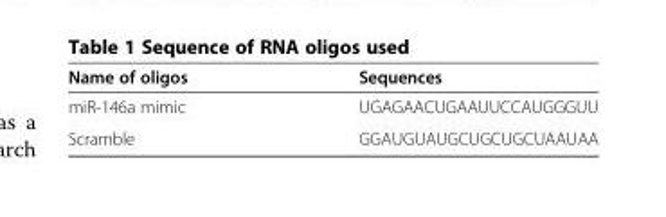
<table><thead><tr><td>Name of oligos</td><td>Sequences</td></tr></thead><tbody><tr><td>miR-146a mimic</td><td>UGAGAACUGAAUUCCAUGGGUU</td></tr><tr><td>Scramble</td><td>GGAUGUAUGCUGCUGCUAAUAA</td></tr></tbody></table>